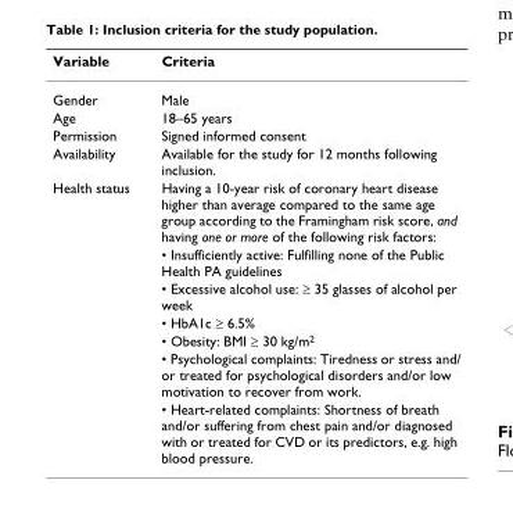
<table><thead><tr><td>Variable</td><td>Criteria</td></tr></thead><tbody><tr><td>Gender</td><td>Male</td></tr><tr><td>Age</td><td>18–65 years</td></tr><tr><td>Permission</td><td>Signed informed consent</td></tr><tr><td>Availability</td><td>Available for the study for 12 months following inclusion.</td></tr><tr><td rowspan="7">Health status</td><td>Having a 10-year risk of coronary heart disease higher than average compared to the same age group according to the Framingham risk score, and having one or more of the following risk factors:</td></tr><tr><td>• Insufficiently active: Fulfilling none of the Public Health PA guidelines</td></tr><tr><td>• Excessive alcohol use: ≥ 35 glasses of alcohol per week</td></tr><tr><td>• HbA1c ≥ 6.5%</td></tr><tr><td>• Obesity: BMI ≥ 30 kg/m<sup>2</sup></td></tr><tr><td>• Psychological complaints: Tiredness or stress and/ or treated for psychological disorders and/or low motivation to recover from work.</td></tr><tr><td>• Heart-related complaints: Shortness of breath and/or suffering from chest pain and/or diagnosed with or treated for CVD or its predictors, e.g. high blood pressure.</td></tr></tbody></table>